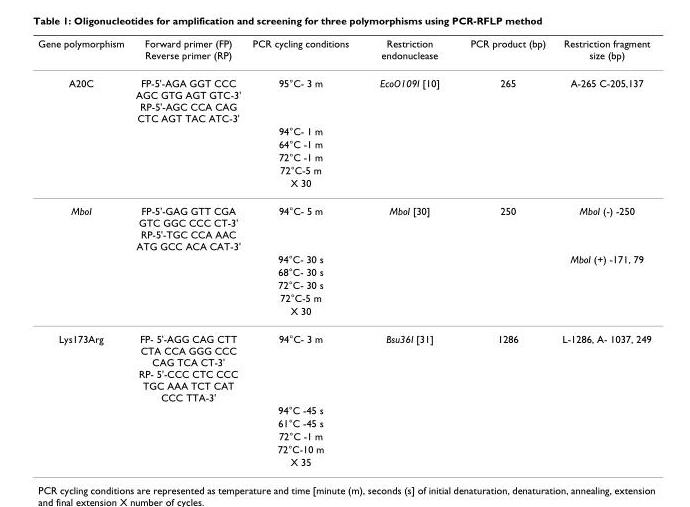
<table><thead><tr><td>Gene polymorphism</td><td>Forward primer (FP) Reverse primer (RP)</td><td>PCR cycling conditions</td><td>Restriction endonuclease</td><td>PCR product (bp)</td><td>Restriction fragment size (bp)</td></tr></thead><tbody><tr><td rowspan="6">A20C</td><td>FP-5&#x27;-AGA GGT CCC AGC GTG AGT GTC-3&#x27; RP-5&#x27;-AGC CCA CAG CTC AGT TAC ATC-3&#x27;</td><td>95°C- 3 m</td><td>EcoO109I [10]</td><td>265</td><td>A-265 C-205,137</td></tr><tr><td></td><td>94°C- 1 m</td><td></td><td></td><td></td></tr><tr><td></td><td>64°C -1 m</td><td></td><td></td><td></td></tr><tr><td></td><td>72°C -1 m</td><td></td><td></td><td></td></tr><tr><td></td><td>72°C-5 m</td><td></td><td></td><td></td></tr><tr><td></td><td>X 30</td><td></td><td></td><td></td></tr><tr><td rowspan="6">MboI</td><td>FP-5&#x27;-GAG GTT CGA GTC GGC CCC CT-3&#x27; RP-5&#x27;-TGC CCA AAC ATG GCC ACA CAT-3&#x27;</td><td>94°C- 5 m</td><td>MboI [30]</td><td>250</td><td>MboI (-) -250</td></tr><tr><td></td><td>94°C- 30 s</td><td></td><td></td><td>MboI (+) -171, 79</td></tr><tr><td></td><td>68°C- 30 s</td><td></td><td></td><td></td></tr><tr><td></td><td>72°C- 30 s</td><td></td><td></td><td></td></tr><tr><td></td><td>72°C-5 m</td><td></td><td></td><td></td></tr><tr><td></td><td>X 30</td><td></td><td></td><td></td></tr><tr><td rowspan="6">Lys173Arg</td><td>FP- 5&#x27;-AGG CAG CTT CTA CCA GGG CCC CAG TCA CT-3&#x27; RP- 5&#x27;-CCC CTC CCC TGC AAA TCT CAT CCC TTA-3&#x27;</td><td>94°C- 3 m</td><td>Bsu36I [31]</td><td>1286</td><td>L-1286, A- 1037, 249</td></tr><tr><td></td><td>94°C -45 s</td><td></td><td></td><td></td></tr><tr><td></td><td>61°C -45 s</td><td></td><td></td><td></td></tr><tr><td></td><td>72°C -1 m</td><td></td><td></td><td></td></tr><tr><td></td><td>72°C-10 m</td><td></td><td></td><td></td></tr><tr><td></td><td>X 35</td><td></td><td></td><td></td></tr></tbody></table>